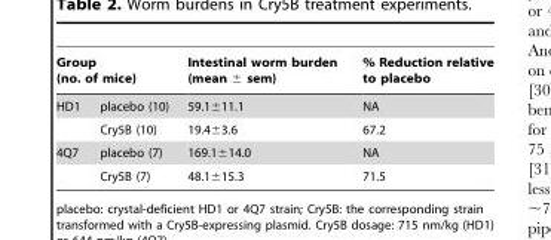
<table><thead><tr><td colspan="2">Group (no. of mice)</td><td rowspan="2">Intestinal worm burden (mean ± sem) 59.1±11.1</td><td rowspan="2">% Reduction relative to placebo NA</td></tr><tr><td>HD1</td><td>placebo (10)</td></tr></thead><tbody><tr><td></td><td>Cry5B (10)</td><td>19.4±3.6</td><td>67.2</td></tr><tr><td rowspan="2">4Q7</td><td>placebo (7)</td><td>169.1±14.0</td><td>NA</td></tr><tr><td>Cry5B (7)</td><td>48.1±15.3</td><td>71.5</td></tr></tbody></table>